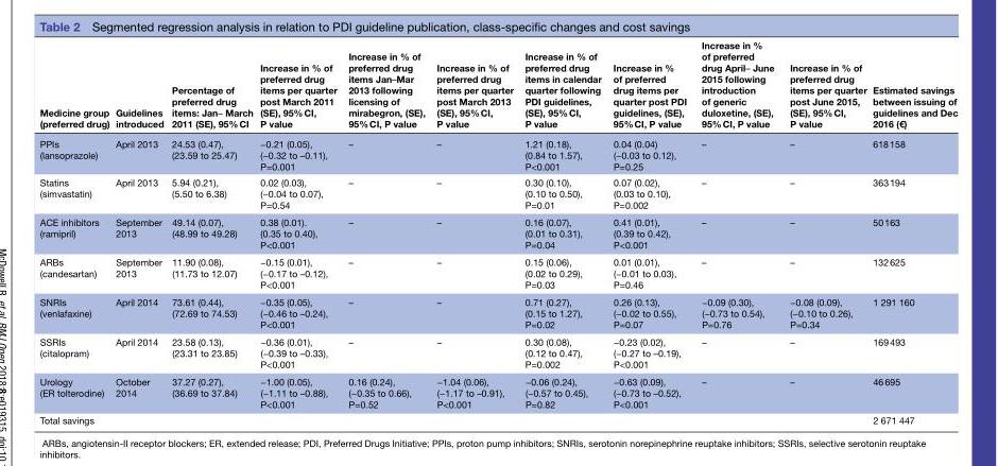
<table><thead><tr><td>Medicine group (preferred drug)</td><td>Guidelines introduced</td><td>Percentage of preferred drug items: Jan– March 2011 (SE), 95% CI</td><td>Increase in % of preferred drug items per quarter post March 2011 (SE), 95% CI, P value</td><td>Increase in % of preferred drug items Jan–Mar 2013 following licensing of mirabegron, (SE), 95% CI, P value</td><td>Increase in % of preferred drug items per quarter post March 2013 (SE), 95% CI, P value</td><td>Increase in % of preferred drug items in calendar quarter following PDI guidelines, (SE), 95% CI, P value</td><td>Increase in % of preferred drug items per quarter post PDI guidelines, (SE), 95% CI, P value</td><td>Increase in % of preferred drug April– June 2015 following introduction of generic duloxetine, (SE), 95% CI, P value</td><td>Increase in % of preferred drug items per quarter post June 2015, (SE), 95% CI, P value</td><td>Estimated savings between issuing of guidelines and Dec 2016 (€)</td></tr></thead><tbody><tr><td>PPIs (lansoprazole)</td><td>April 2013</td><td>24.53 (0.47), (23.59 to 25.47)</td><td>−0.21 (0.05), (−0.32 to –0.11), P=0.001</td><td>–</td><td>–</td><td>1.21 (0.18), (0.84 to 1.57), P&lt;0.001</td><td>0.04 (0.04) (−0.03 to 0.12), P=0.25</td><td>–</td><td>–</td><td>618 158</td></tr><tr><td>Statins (simvastatin)</td><td>April 2013</td><td>5.94 (0.21), (5.50 to 6.38)</td><td>0.02 (0.03), (−0.04 to 0.07), P=0.54</td><td>–</td><td>–</td><td>0.30 (0.10), (0.10 to 0.50), P=0.01</td><td>0.07 (0.02), (0.03 to 0.10), P=0.002</td><td>–</td><td>–</td><td>363 194</td></tr><tr><td>ACE inhibitors (ramipril)</td><td>September 2013</td><td>49.14 (0.07), (48.99 to 49.28)</td><td>0.38 (0.01). (0.35 to 0.40), P&lt;0.001</td><td>–</td><td>–</td><td>0.16 (0.07), (0.01 to 0.31), P=0.04</td><td>0.41 (0.01), (0.39 to 0.42), P&lt;0.001</td><td>–</td><td>–</td><td>50 163</td></tr><tr><td>ARBs (candesartan)</td><td>September 2013</td><td>11.90 (0.08), (11.73 to 12.07)</td><td>−0.15 (0.01), (−0.17 to –0.12), P&lt;0.001</td><td>–</td><td>–</td><td>0.15 (0.06), (0.02 to 0.29), P=0.03</td><td>0.01 (0.01), (−0.01 to 0.03), P=0.46</td><td>–</td><td>–</td><td>132 625</td></tr><tr><td>SNRIs (venlafaxine)</td><td>April 2014</td><td>73.61 (0.44), (72.69 to 74.53)</td><td>−0.35 (0.05), (−0.46 to –0.24), P&lt;0.001</td><td>–</td><td>–</td><td>0.71 (0.27), (0.15 to 1.27), P=0.02</td><td>0.26 (0.13), (−0.02 to 0.55), P=0.07</td><td>−0.09 (0.30), (−0.73 to 0.54), P=0.76</td><td>−0.08 (0.09), (−0.10 to 0.26), P=0.34</td><td>1 291 160</td></tr><tr><td>SSRIs (citalopram)</td><td>April 2014</td><td>23.58 (0.13), (23.31 to 23.85)</td><td>−0.36 (0.01), (−0.39 to –0.33), P&lt;0.001</td><td>–</td><td>–</td><td>0.30 (0.08), (0.12 to 0.47), P=0.002</td><td>−0.23 (0.02), (−0.27 to –0.19), P&lt;0.001</td><td>–</td><td>–</td><td>169 493</td></tr><tr><td>Urology (ER tolterodine)</td><td>October 2014</td><td>37.27 (0.27), (36.69 to 37.84)</td><td>−1.00 (0.05), (−1.11 to –0.88), P&lt;0.001</td><td>0.16 (0.24), (−0.35 to 0.66), P=0.52</td><td>−1.04 (0.06), (−1.17 to –0.91), P&lt;0.001</td><td>−0.06 (0.24), (−0.57 to 0.45), P=0.82</td><td>−0.63 (0.09), (−0.73 to –0.52), P&lt;0.001</td><td>–</td><td>–</td><td>46 695</td></tr><tr><td>Total savings</td><td></td><td></td><td></td><td></td><td></td><td></td><td></td><td></td><td></td><td>2 671 447</td></tr></tbody></table>